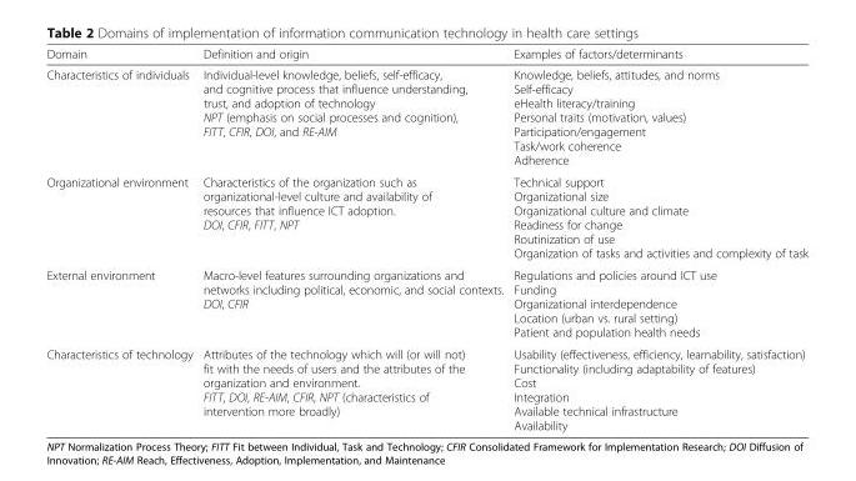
<table><thead><tr><td>Domain</td><td>Definition and origin</td><td>Examples of factors/determinants</td></tr></thead><tbody><tr><td>Characteristics of individuals</td><td>Individual-level knowledge, beliefs, self-efficacy, and cognitive process that influence understanding, trust, and adoption of technology NPT (emphasis on social processes and cognition), FITT, CFIR, DOI, and RE-AIM</td><td>Knowledge, beliefs, attitudes, and norms Self-efficacy eHealth literacy/training Personal traits (motivation, values) Participation/engagement Task/work coherence Adherence</td></tr><tr><td>Organizational environment</td><td>Characteristics of the organization such as organizational-level culture and availability of resources that influence ICT adoption. DOI, CFIR, FITT, NPT</td><td>Technical support Organizational size Organizational culture and climate Readiness for change Routinization of use Organization of tasks and activities and complexity of task</td></tr><tr><td>External environment</td><td>Macro-level features surrounding organizations and networks including political, economic, and social contexts. DOI, CFIR</td><td>Regulations and policies around ICT use Funding Organizational interdependence Location (urban vs. rural setting) Patient and population health needs</td></tr><tr><td>Characteristics of technology</td><td>Attributes of the technology which will (or will not) fit with the needs of users and the attributes of the organization and environment. FITT, DOI, RE-AIM, CFIR, NPT (characteristics of intervention more broadly)</td><td>Usability (effectiveness, efficiency, learnability, satisfaction) Functionality (including adaptability of features) Cost Integration Available technical infrastructure Availability</td></tr></tbody></table>